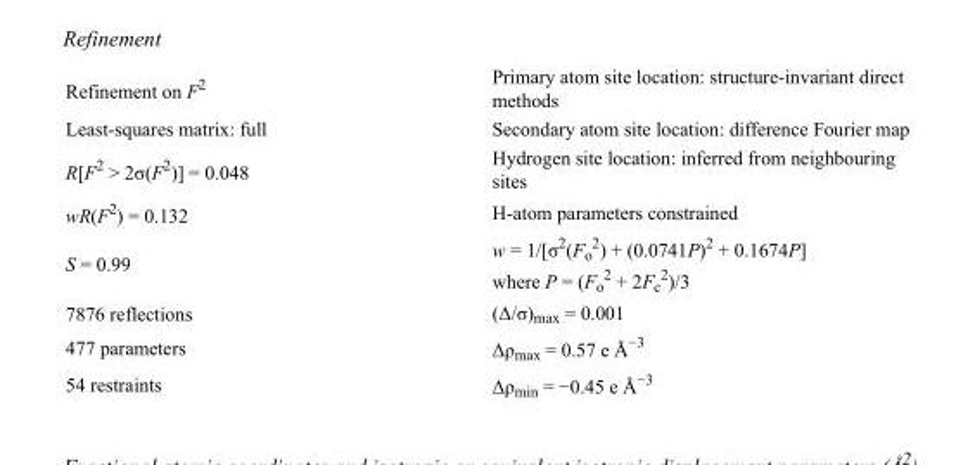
<table><tbody><tr><td>Refinement on F<sup>2</sup></td><td>Primary atom site location: structure-invariant direct methods</td></tr><tr><td>Least-squares matrix: full</td><td>Secondary atom site location: difference Fourier map</td></tr><tr><td>R[F<sup>2</sup> &gt; 2σ(F<sup>2</sup>)] = 0.048</td><td>Hydrogen site location: inferred from neighbouring sites</td></tr><tr><td>wR(F<sup>2</sup>) = 0.132</td><td>H-atom parameters constrained</td></tr><tr><td>S = 0.99</td><td>w = 1/[σ<sup>2</sup>(F<sub>o</sub> <sup>2</sup>) + (0.0741P)<sup>2</sup> + 0.1674P] where P = (F<sub>o</sub> <sup>2</sup> + 2F<sub>c</sub> <sup>2</sup>)/3</td></tr><tr><td>7876 reflections</td><td>(Δ/σ)<sub>max</sub> = 0.001</td></tr><tr><td>477 parameters</td><td>Δρ<sub>max</sub> = 0.57 e Å<sup>−3</sup></td></tr><tr><td>54 restraints</td><td>Δρ<sub>min</sub> = −0.45 e Å<sup>−3</sup></td></tr></tbody></table>